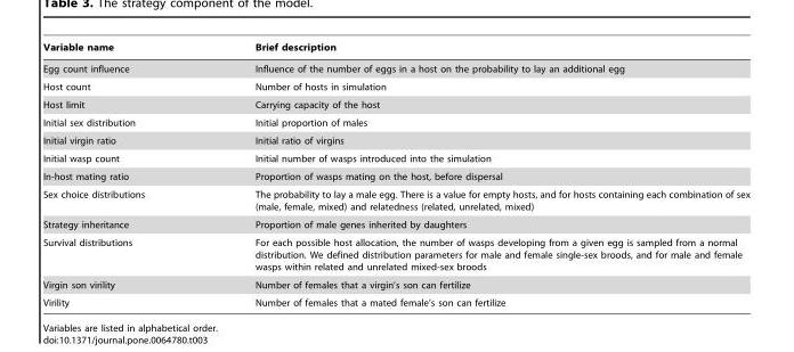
<table><thead><tr><td>Variable name</td><td>Brief description</td></tr></thead><tbody><tr><td>Egg count influence</td><td>Influence of the number of eggs in a host on the probability to lay an additional egg</td></tr><tr><td>Host count</td><td>Number of hosts in simulation</td></tr><tr><td>Host limit</td><td>Carrying capacity of the host</td></tr><tr><td>Initial sex distribution</td><td>Initial proportion of males</td></tr><tr><td>Initial virgin ratio</td><td>Initial ratio of virgins</td></tr><tr><td>Initial wasp count</td><td>Initial number of wasps introduced into the simulation</td></tr><tr><td>In-host mating ratio</td><td>Proportion of wasps mating on the host, before dispersal</td></tr><tr><td>Sex choice distributions</td><td>The probability to lay a male egg. There is a value for empty hosts, and for hosts containing each combination of sex (male, female, mixed) and relatedness (related, unrelated, mixed)</td></tr><tr><td>Strategy inheritance</td><td>Proportion of male genes inherited by daughters</td></tr><tr><td>Survival distributions</td><td>For each possible host allocation, the number of wasps developing from a given egg is sampled from a normal distribution. We defined distribution parameters for male and female single-sex broods, and for male and female wasps within related and unrelated mixed-sex broods</td></tr><tr><td>Virgin son virility</td><td>Number of females that a virgin’s son can fertilize</td></tr><tr><td>Virility</td><td>Number of females that a mated female’s son can fertilize</td></tr></tbody></table>